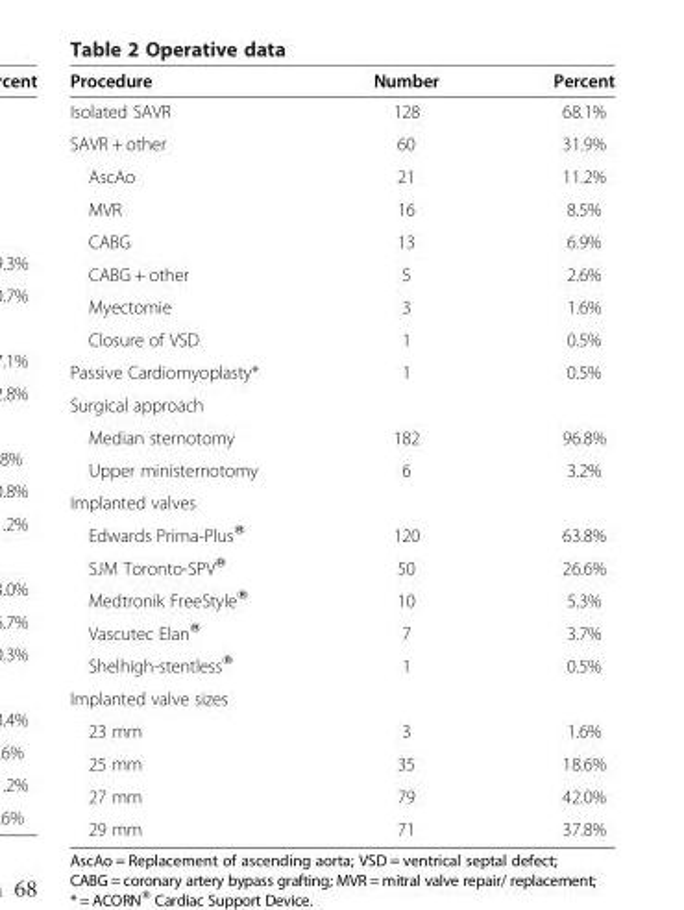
<table><thead><tr><td>Procedure</td><td>Number</td><td>Percent</td></tr></thead><tbody><tr><td>Isolated SAVR</td><td>128</td><td>68.1%</td></tr><tr><td>SAVR + other</td><td>60</td><td>31.9%</td></tr><tr><td>AscAo</td><td>21</td><td>11.2%</td></tr><tr><td>MVR</td><td>16</td><td>8.5%</td></tr><tr><td>CABG</td><td>13</td><td>6.9%</td></tr><tr><td>CABG + other</td><td>5</td><td>2.6%</td></tr><tr><td>Myectomie</td><td>3</td><td>1.6%</td></tr><tr><td>Closure of VSD</td><td>1</td><td>0.5%</td></tr><tr><td>Passive Cardiomyoplasty*</td><td>1</td><td>0.5%</td></tr><tr><td colspan="3">Surgical approach</td></tr><tr><td>Median sternotomy</td><td>182</td><td>96.8%</td></tr><tr><td>Upper ministernotomy</td><td>6</td><td>3.2%</td></tr><tr><td colspan="3">Implanted valves</td></tr><tr><td>Edwards Prima-Plus®</td><td>120</td><td>63.8%</td></tr><tr><td>SJM Toronto-SPV®</td><td>50</td><td>26.6%</td></tr><tr><td>Medtronik FreeStyle®</td><td>10</td><td>5.3%</td></tr><tr><td>Vascutec Elan®</td><td>7</td><td>3.7%</td></tr><tr><td>Shelhigh-stentless®</td><td>1</td><td>0.5%</td></tr><tr><td colspan="3">Implanted valve sizes</td></tr><tr><td>23 mm</td><td>3</td><td>1.6%</td></tr><tr><td>25 mm</td><td>35</td><td>18.6%</td></tr><tr><td>27 mm</td><td>79</td><td>42.0%</td></tr><tr><td>29 mm</td><td>71</td><td>37.8%</td></tr></tbody></table>